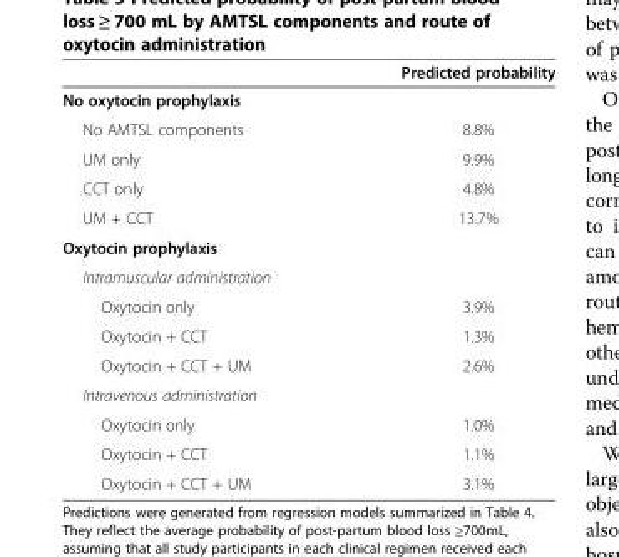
<table><thead><tr><td></td><td>Predicted probability</td></tr></thead><tbody><tr><td colspan="2">No oxytocin prophylaxis</td></tr><tr><td>No AMTSL components</td><td>8.8%</td></tr><tr><td>UM only</td><td>9.9%</td></tr><tr><td>CCT only</td><td>4.8%</td></tr><tr><td>UM + CCT</td><td>13.7%</td></tr><tr><td colspan="2">Oxytocin prophylaxis</td></tr><tr><td colspan="2">Intramuscular administration</td></tr><tr><td>Oxytocin only</td><td>3.9%</td></tr><tr><td>Oxytocin + CCT</td><td>1.3%</td></tr><tr><td>Oxytocin + CCT + UM</td><td>2.6%</td></tr><tr><td colspan="2">Intravenous administration</td></tr><tr><td>Oxytocin only</td><td>1.0%</td></tr><tr><td>Oxytocin + CCT</td><td>1.1%</td></tr><tr><td>Oxytocin + CCT + UM</td><td>3.1%</td></tr></tbody></table>